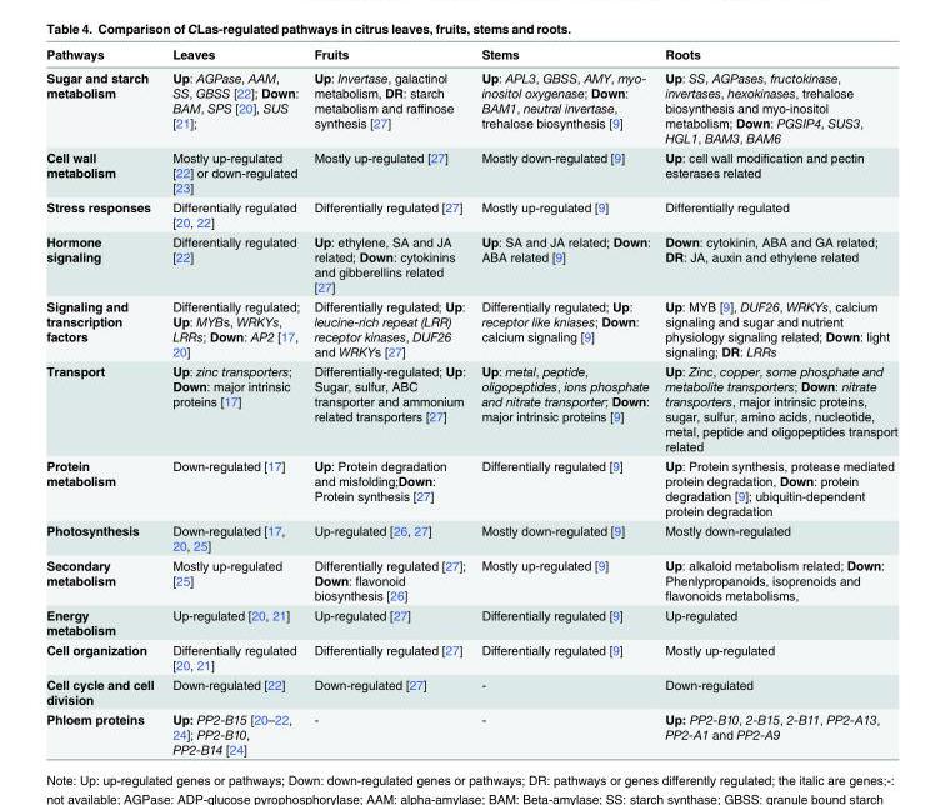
<table><thead><tr><td>Pathways</td><td>Leaves</td><td>Fruits</td><td>Stems</td><td>Roots</td></tr></thead><tbody><tr><td>Sugar and starch metabolism</td><td>Up: AGPase, AAM, SS, GBSS [22]; Down: BAM, SPS [20], SUS [21];</td><td>Up: Invertase, galactinol metabolism, DR: starch metabolism and raffinose synthesis [27]</td><td>Up: APL3, GBSS, AMY, myo- inositol oxygenase; Down: BAM1, neutral invertase, trehalose biosynthesis [9]</td><td>Up: SS, AGPases, fructokinase, invertases, hexokinases, trehalose biosynthesis and myo-inositol metabolism; Down: PGSIP4, SUS3, HGL1, BAM3, BAM6</td></tr><tr><td>Cell wall metabolism</td><td>Mostly up-regulated [22] or down-regulated [23]</td><td>Mostly up-regulated [27]</td><td>Mostly down-regulated [9]</td><td>Up: cell wall modification and pectin esterases related</td></tr><tr><td>Stress responses</td><td>Differentially regulated [20, 22]</td><td>Differentially regulated [27]</td><td>Mostly up-regulated [9]</td><td>Differentially regulated</td></tr><tr><td>Hormone signaling</td><td>Differentially regulated [22]</td><td>Up: ethylene, SA and JA related; Down: cytokinins and gibberellins related [27]</td><td>Up: SA and JA related; Down: ABA related [9]</td><td>Down: cytokinin, ABA and GA related; DR: JA, auxin and ethylene related</td></tr><tr><td>Signaling and transcription factors</td><td>Differentially regulated; Up: MYBs, WRKYs, LRRs; Down: AP2 [17, 20]</td><td>Differentially regulated; Up: leucine-rich repeat (LRR) receptor kinases, DUF26 and WRKYs [27]</td><td>Differentially regulated; Up: receptor like kniases; Down: calcium signaling [9]</td><td>Up: MYB [9], DUF26, WRKYs, calcium signaling and sugar and nutrient physiology signaling related; Down: light signaling; DR: LRRs</td></tr><tr><td>Transport</td><td>Up: zinc transporters; Down: major intrinsic proteins [17]</td><td>Differentially-regulated; Up: Sugar, sulfur, ABC transporter and ammonium related transporters [27]</td><td>Up: metal, peptide, oligopeptides, ions phosphate and nitrate transporter; Down: major intrinsic proteins [9]</td><td>Up: Zinc, copper, some phosphate and metabolite transporters; Down: nitrate transporters, major intrinsic proteins, sugar, sulfur, amino acids, nucleotide, metal, peptide and oligopeptides transport related</td></tr><tr><td>Protein metabolism</td><td>Down-regulated [17]</td><td>Up: Protein degradation and misfolding;Down: Protein synthesis [27]</td><td>Differentially regulated [9]</td><td>Up: Protein synthesis, protease mediated protein degradation, Down: protein degradation [9]; ubiquitin-dependent protein degradation</td></tr><tr><td>Photosynthesis</td><td>Down-regulated [17, 20, 25]</td><td>Up-regulated [26, 27]</td><td>Mostly down-regulated [9]</td><td>Mostly down-regulated</td></tr><tr><td>Secondary metabolism</td><td>Mostly up-regulated [25]</td><td>Differentially regulated [27]; Down: flavonoid biosynthesis [26]</td><td>Mostly up-regulated [9]</td><td>Up: alkaloid metabolism related; Down: Phenlypropanoids, isoprenoids and flavonoids metabolisms,</td></tr><tr><td>Energy metabolism</td><td>Up-regulated [20, 21]</td><td>Up-regulated [27]</td><td>Differentially regulated [9]</td><td>Up-regulated</td></tr><tr><td>Cell organization</td><td>Differentially regulated [20, 21]</td><td>Differentially regulated [27]</td><td>Differentially regulated [9]</td><td>Mostly up-regulated</td></tr><tr><td>Cell cycle and cell division</td><td>Down-regulated [22]</td><td>Down-regulated [27]</td><td>-</td><td>Down-regulated</td></tr><tr><td>Phloem proteins</td><td>Up: PP2-B15 [20–22, 24]; PP2-B10, PP2-B14 [24]</td><td>-</td><td>-</td><td>Up: PP2-B10, 2-B15, 2-B11, PP2-A13, PP2-A1 and PP2-A9</td></tr></tbody></table>